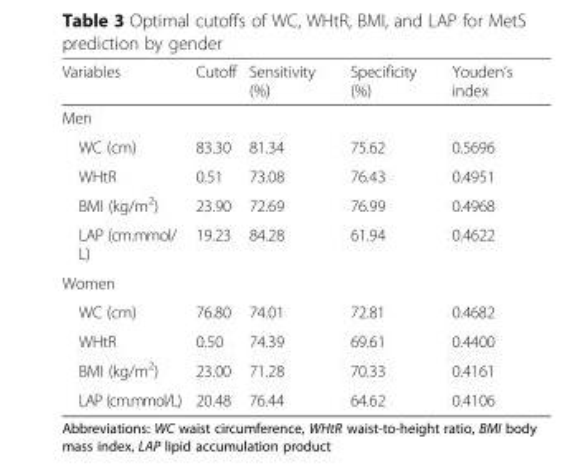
<table><thead><tr><td>Variables</td><td>Cutoff</td><td>Sensitivity (%)</td><td>Specificity (%)</td><td>Youden’s index</td></tr></thead><tbody><tr><td colspan="5">Men</td></tr><tr><td>WC (cm)</td><td>83.30</td><td>81.34</td><td>75.62</td><td>0.5696</td></tr><tr><td>WHtR</td><td>0.51</td><td>73.08</td><td>76.43</td><td>0.4951</td></tr><tr><td>BMI (kg/m<sup>2</sup>)</td><td>23.90</td><td>72.69</td><td>76.99</td><td>0.4968</td></tr><tr><td>LAP (cm.mmol/ L)</td><td>19.23</td><td>84.28</td><td>61.94</td><td>0.4622</td></tr><tr><td colspan="5">Women</td></tr><tr><td>WC (cm)</td><td>76.80</td><td>74.01</td><td>72.81</td><td>0.4682</td></tr><tr><td>WHtR</td><td>0.50</td><td>74.39</td><td>69.61</td><td>0.4400</td></tr><tr><td>BMI (kg/m<sup>2</sup>)</td><td>23.00</td><td>71.28</td><td>70.33</td><td>0.4161</td></tr><tr><td>LAP (cm.mmol/L)</td><td>20.48</td><td>76.44</td><td>64.62</td><td>0.4106</td></tr></tbody></table>